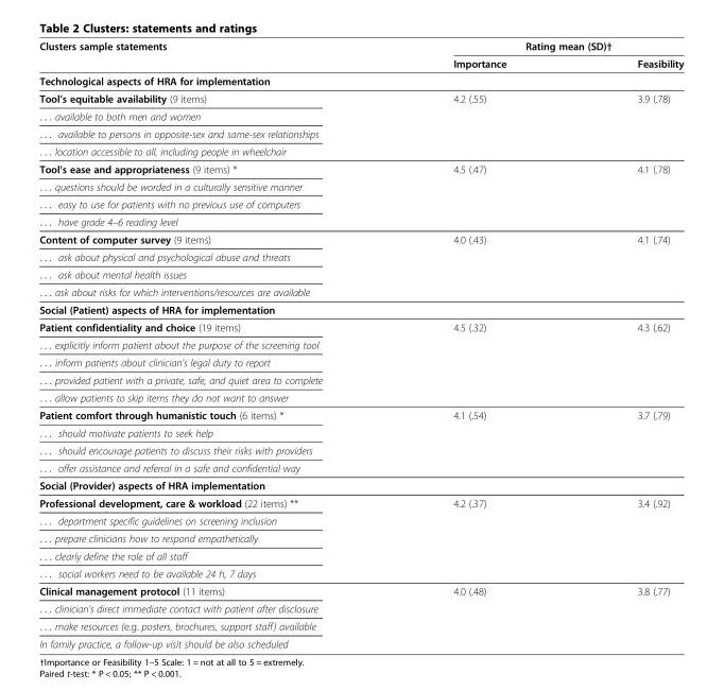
<table><thead><tr><td rowspan="2">Clusters sample statements</td><td rowspan="2">Rating mean (SD)† Importance</td><td rowspan="2">Feasibility</td></tr><tr></tr></thead><tbody><tr><td colspan="3">Technological aspects of HRA for implementation</td></tr><tr><td>Tool’s equitable availability (9 items)</td><td>4.2 (.55)</td><td>3.9 (.78)</td></tr><tr><td colspan="3">. . . available to both men and women</td></tr><tr><td colspan="3">. . . available to persons in opposite-sex and same-sex relationships</td></tr><tr><td colspan="3">. . . location accessible to all, including people in wheelchair</td></tr><tr><td>Tool’s ease and appropriateness (9 items) *</td><td>4.5 (.47)</td><td>4.1 (.78)</td></tr><tr><td colspan="3">. . . questions should be worded in a culturally sensitive manner</td></tr><tr><td colspan="3">. . . easy to use for patients with no previous use of computers</td></tr><tr><td colspan="3">. . . have grade 4–6 reading level</td></tr><tr><td>Content of computer survey (9 items)</td><td>4.0 (.43)</td><td>4.1 (.74)</td></tr><tr><td colspan="3">. . . ask about physical and psychological abuse and threats</td></tr><tr><td colspan="3">. . . ask about mental health issues</td></tr><tr><td colspan="3">. . . ask about risks for which interventions/resources are available</td></tr><tr><td colspan="3">Social (Patient) aspects of HRA for implementation</td></tr><tr><td>Patient confidentiality and choice (19 items)</td><td>4.5 (.32)</td><td>4.3 (.62)</td></tr><tr><td colspan="3">. . . explicitly inform patient about the purpose of the screening tool</td></tr><tr><td colspan="3">. . . inform patients about clinician&#x27;s legal duty to report</td></tr><tr><td colspan="3">. . . provided patient with a private, safe, and quiet area to complete</td></tr><tr><td colspan="3">. . . allow patients to skip items they do not want to answer</td></tr><tr><td>Patient comfort through humanistic touch (6 items) *</td><td>4.1 (.54)</td><td>3.7 (.79)</td></tr><tr><td colspan="3">. . . should motivate patients to seek help</td></tr><tr><td colspan="3">. . . should encourage patients to discuss their risks with providers</td></tr><tr><td colspan="3">. . . offer assistance and referral in a safe and confidential way</td></tr><tr><td colspan="3">Social (Provider) aspects of HRA implementation</td></tr><tr><td>Professional development, care &amp; workload (22 items) **</td><td>4.2 (.37)</td><td>3.4 (.92)</td></tr><tr><td colspan="3">. . . department specific guidelines on screening inclusion</td></tr><tr><td colspan="3">. . . prepare clinicians how to respond empathetically</td></tr><tr><td colspan="3">. . . clearly define the role of all staff</td></tr><tr><td colspan="3">. . . social workers need to be available 24 h, 7 days</td></tr><tr><td>Clinical management protocol (11 items)</td><td>4.0 (.48)</td><td>3.8 (.77)</td></tr><tr><td colspan="3">. . . clinician&#x27;s direct immediate contact with patient after disclosure</td></tr><tr><td colspan="3">. . . make resources (e.g. posters, brochures, support staff) available</td></tr><tr><td>In family practice, a follow-up visit should be also scheduled</td><td></td><td></td></tr></tbody></table>